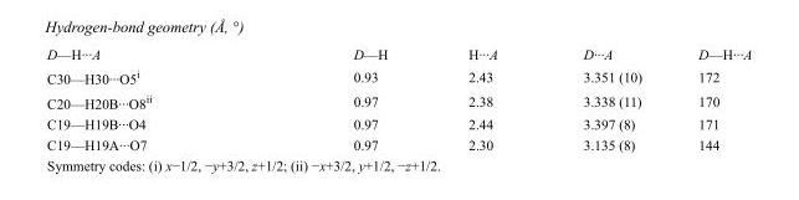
<table><tbody><tr><td>D—H···A</td><td>D—H</td><td>H···A</td><td>D···A</td><td>D—H···A</td></tr><tr><td>C30—H30···O5<sup>i</sup></td><td>0.93</td><td>2.43</td><td>3.351 (10)</td><td>172</td></tr><tr><td>C20—H20B···O8<sup>ii</sup></td><td>0.97</td><td>2.38</td><td>3.338 (11)</td><td>170</td></tr><tr><td>C19—H19B···O4</td><td>0.97</td><td>2.44</td><td>3.397 (8)</td><td>171</td></tr><tr><td>C19—H19A···O7</td><td>0.97</td><td>2.30</td><td>3.135 (8)</td><td>144</td></tr></tbody></table>